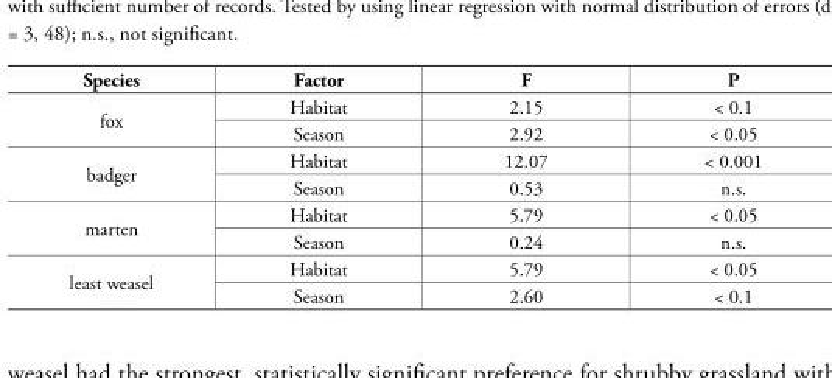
<table><thead><tr><td>Species</td><td>Factor</td><td>F</td><td>P</td></tr></thead><tbody><tr><td rowspan="2">fox</td><td>Habitat</td><td>2.15</td><td>&lt; 0.1</td></tr><tr><td>Season</td><td>2.92</td><td>&lt; 0.05</td></tr><tr><td rowspan="2">badger</td><td>Habitat</td><td>12.07</td><td>&lt; 0.001</td></tr><tr><td>Season</td><td>0.53</td><td>n.s.</td></tr><tr><td rowspan="2">marten</td><td>Habitat</td><td>5.79</td><td>&lt; 0.05</td></tr><tr><td>Season</td><td>0.24</td><td>n.s.</td></tr><tr><td rowspan="2">least weasel</td><td>Habitat</td><td>5.79</td><td>&lt; 0.05</td></tr><tr><td>Season</td><td>2.60</td><td>&lt; 0.1</td></tr></tbody></table>